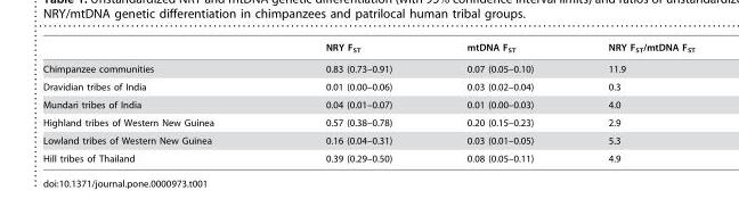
<table><thead><tr><td></td><td>NRY F<sub>ST</sub></td><td>mtDNA F<sub>ST</sub></td><td>NRY F<sub>ST</sub>/mtDNA F<sub>ST</sub></td></tr></thead><tbody><tr><td>Chimpanzee communities</td><td>0.83 (0.73–0.91)</td><td>0.07 (0.05–0.10)</td><td>11.9</td></tr><tr><td>Dravidian tribes of India</td><td>0.01 (0.00–0.06)</td><td>0.03 (0.02–0.04)</td><td>0.3</td></tr><tr><td>Mundari tribes of India</td><td>0.04 (0.01–0.07)</td><td>0.01 (0.00–0.03)</td><td>4.0</td></tr><tr><td>Highland tribes of Western New Guinea</td><td>0.57 (0.38–0.78)</td><td>0.20 (0.15–0.23)</td><td>2.9</td></tr><tr><td>Lowland tribes of Western New Guinea</td><td>0.16 (0.04–0.31)</td><td>0.03 (0.01–0.05)</td><td>5.3</td></tr><tr><td>Hill tribes of Thailand</td><td>0.39 (0.29–0.50)</td><td>0.08 (0.05–0.11)</td><td>4.9</td></tr></tbody></table>